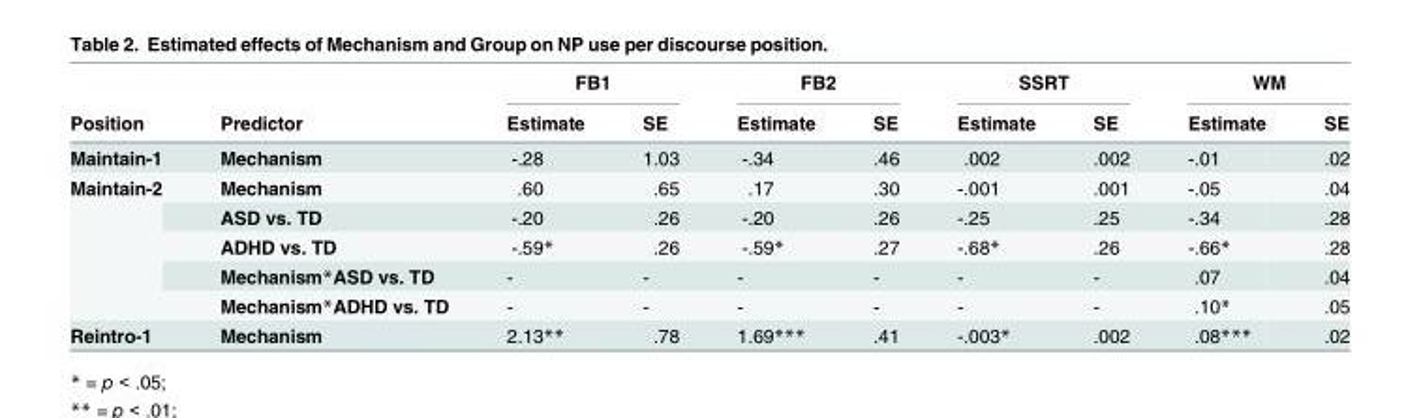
<table><thead><tr><td rowspan="2">Position</td><td rowspan="2">Predictor</td><td colspan="2">FB1</td><td colspan="2">FB2</td><td colspan="2">SSRT</td><td colspan="2">WM</td></tr><tr><td>Estimate</td><td>SE</td><td>Estimate</td><td>SE</td><td>Estimate</td><td>SE</td><td>Estimate</td><td>SE</td></tr></thead><tbody><tr><td>Maintain-1</td><td>Mechanism</td><td>-.28</td><td>1.03</td><td>-.34</td><td>.46</td><td>.002</td><td>.002</td><td>-.01</td><td>.02</td></tr><tr><td rowspan="5">Maintain-2</td><td>Mechanism</td><td>.60</td><td>.65</td><td>.17</td><td>.30</td><td>-.001</td><td>.001</td><td>-.05</td><td>.04</td></tr><tr><td>ASD vs. TD</td><td>-.20</td><td>.26</td><td>-.20</td><td>.26</td><td>-.25</td><td>.25</td><td>-.34</td><td>.28</td></tr><tr><td>ADHD vs. TD</td><td>-.59*</td><td>.26</td><td>-.59*</td><td>.27</td><td>-.68*</td><td>.26</td><td>-.66*</td><td>.28</td></tr><tr><td>Mechanism*ASD vs. TD</td><td>-</td><td>-</td><td>-</td><td>-</td><td>-</td><td>-</td><td>.07</td><td>.04</td></tr><tr><td>Mechanism*ADHD vs. TD</td><td>-</td><td>-</td><td>-</td><td>-</td><td>-</td><td>-</td><td>.10*</td><td>.05</td></tr><tr><td>Reintro-1</td><td>Mechanism</td><td>2.13**</td><td>.78</td><td>1.69***</td><td>.41</td><td>-.003*</td><td>.002</td><td>.08***</td><td>.02</td></tr></tbody></table>